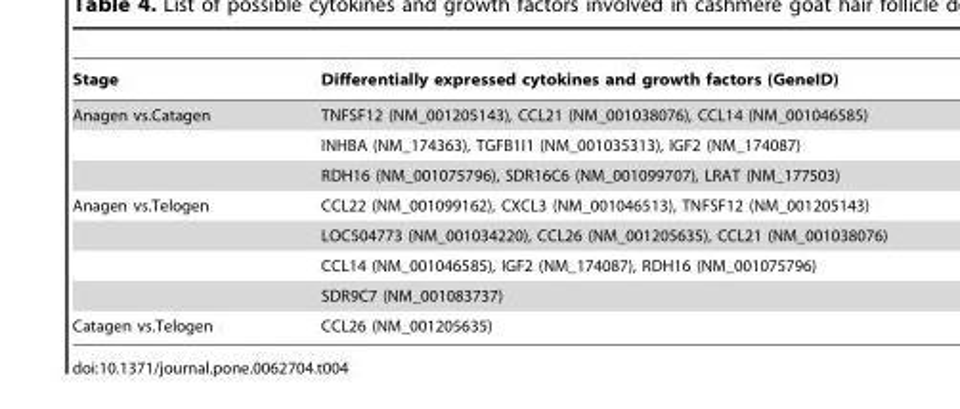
<table><thead><tr><td>Stage</td><td>Differentially expressed cytokines and growth factors (GeneID)</td></tr></thead><tbody><tr><td rowspan="3">Anagen vs.Catagen</td><td>TNFSF12 (NM_001205143), CCL21 (NM_001038076), CCL14 (NM_001046585)</td></tr><tr><td>INHBA (NM_174363), TGFB1I1 (NM_001035313), IGF2 (NM_174087)</td></tr><tr><td>RDH16 (NM_001075796), SDR16C6 (NM_001099707), LRAT (NM_177503)</td></tr><tr><td rowspan="4">Anagen vs.Telogen</td><td>CCL22 (NM_001099162), CXCL3 (NM_001046513), TNFSF12 (NM_001205143)</td></tr><tr><td>LOC504773 (NM_001034220), CCL26 (NM_001205635), CCL21 (NM_001038076)</td></tr><tr><td>CCL14 (NM_001046585), IGF2 (NM_174087), RDH16 (NM_001075796)</td></tr><tr><td>SDR9C7 (NM_001083737)</td></tr><tr><td>Catagen vs.Telogen</td><td>CCL26 (NM_001205635)</td></tr></tbody></table>